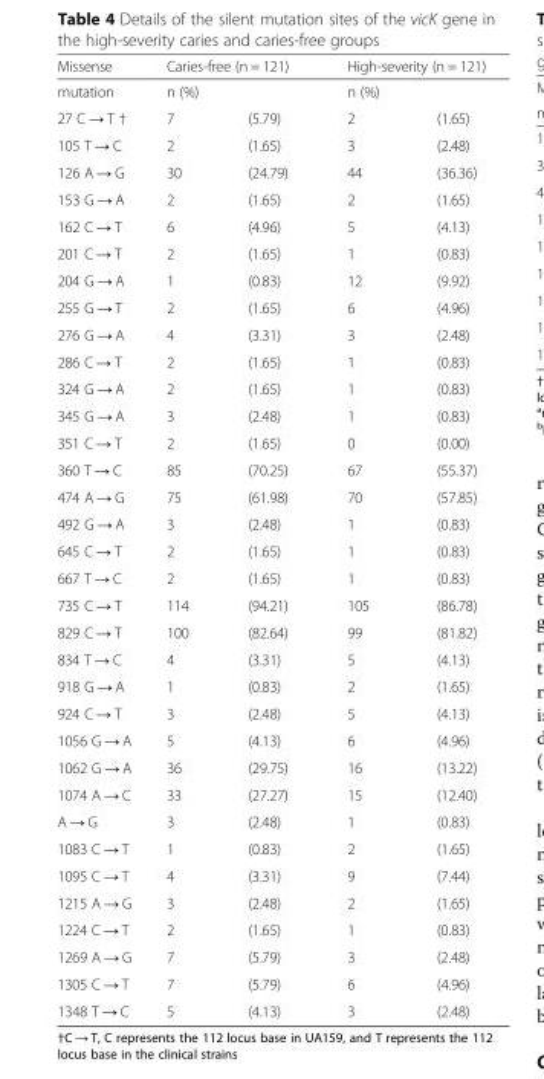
<table><thead><tr><td rowspan="3">Missense mutation 27 C → T †</td><td rowspan="2" colspan="2">Caries-free (n = 121) n (%)</td><td rowspan="2" colspan="2">High-severity (n = 121) n (%)</td></tr><tr></tr><tr><td>7</td><td>(5.79)</td><td>2</td><td>(1.65)</td></tr></thead><tbody><tr><td>105 T → C</td><td>2</td><td>(1.65)</td><td>3</td><td>(2.48)</td></tr><tr><td>126 A → G</td><td>30</td><td>(24.79)</td><td>44</td><td>(36.36)</td></tr><tr><td>153 G → A</td><td>2</td><td>(1.65)</td><td>2</td><td>(1.65)</td></tr><tr><td>162 C → T</td><td>6</td><td>(4.96)</td><td>5</td><td>(4.13)</td></tr><tr><td>201 C → T</td><td>2</td><td>(1.65)</td><td>1</td><td>(0.83)</td></tr><tr><td>204 G → A</td><td>1</td><td>(0.83)</td><td>12</td><td>(9.92)</td></tr><tr><td>255 G → T</td><td>2</td><td>(1.65)</td><td>6</td><td>(4.96)</td></tr><tr><td>276 G → A</td><td>4</td><td>(3.31)</td><td>3</td><td>(2.48)</td></tr><tr><td>286 C → T</td><td>2</td><td>(1.65)</td><td>1</td><td>(0.83)</td></tr><tr><td>324 G → A</td><td>2</td><td>(1.65)</td><td>1</td><td>(0.83)</td></tr><tr><td>345 G → A</td><td>3</td><td>(2.48)</td><td>1</td><td>(0.83)</td></tr><tr><td>351 C → T</td><td>2</td><td>(1.65)</td><td>0</td><td>(0.00)</td></tr><tr><td>360 T → C</td><td>85</td><td>(70.25)</td><td>67</td><td>(55.37)</td></tr><tr><td>474 A → G</td><td>75</td><td>(61.98)</td><td>70</td><td>(57.85)</td></tr><tr><td>492 G → A</td><td>3</td><td>(2.48)</td><td>1</td><td>(0.83)</td></tr><tr><td>645 C → T</td><td>2</td><td>(1.65)</td><td>1</td><td>(0.83)</td></tr><tr><td>667 T → C</td><td>2</td><td>(1.65)</td><td>1</td><td>(0.83)</td></tr><tr><td>735 C → T</td><td>114</td><td>(94.21)</td><td>105</td><td>(86.78)</td></tr><tr><td>829 C → T</td><td>100</td><td>(82.64)</td><td>99</td><td>(81.82)</td></tr><tr><td>834 T → C</td><td>4</td><td>(3.31)</td><td>5</td><td>(4.13)</td></tr><tr><td>918 G → A</td><td>1</td><td>(0.83)</td><td>2</td><td>(1.65)</td></tr><tr><td>924 C → T</td><td>3</td><td>(2.48)</td><td>5</td><td>(4.13)</td></tr><tr><td>1056 G → A</td><td>5</td><td>(4.13)</td><td>6</td><td>(4.96)</td></tr><tr><td>1062 G → A</td><td>36</td><td>(29.75)</td><td>16</td><td>(13.22)</td></tr><tr><td>1074 A → C</td><td>33</td><td>(27.27)</td><td>15</td><td>(12.40)</td></tr><tr><td>A → G</td><td>3</td><td>(2.48)</td><td>1</td><td>(0.83)</td></tr><tr><td>1083 C → T</td><td>1</td><td>(0.83)</td><td>2</td><td>(1.65)</td></tr><tr><td>1095 C → T</td><td>4</td><td>(3.31)</td><td>9</td><td>(7.44)</td></tr><tr><td>1215 A → G</td><td>3</td><td>(2.48)</td><td>2</td><td>(1.65)</td></tr><tr><td>1224 C → T</td><td>2</td><td>(1.65)</td><td>1</td><td>(0.83)</td></tr><tr><td>1269 A → G</td><td>7</td><td>(5.79)</td><td>3</td><td>(2.48)</td></tr><tr><td>1305 C → T</td><td>7</td><td>(5.79)</td><td>6</td><td>(4.96)</td></tr><tr><td>1348 T → C</td><td>5</td><td>(4.13)</td><td>3</td><td>(2.48)</td></tr></tbody></table>